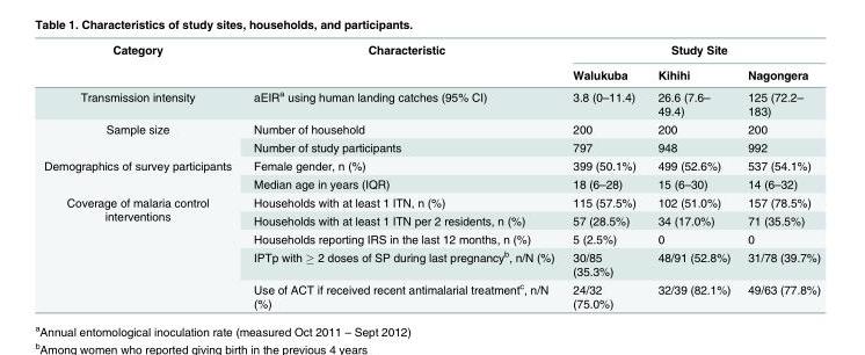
<table><thead><tr><td rowspan="2">Category</td><td rowspan="2">Characteristic</td><td colspan="3">Study Site</td></tr><tr><td>Walukuba</td><td>Kihihi</td><td>Nagongera</td></tr></thead><tbody><tr><td>Transmission intensity</td><td>aEIR<sup>a</sup> using human landing catches (95% CI)</td><td>3.8 (0–11.4)</td><td>26.6 (7.6– 49.4)</td><td>125 (72.2– 183)</td></tr><tr><td rowspan="2">Sample size</td><td>Number of household</td><td>200</td><td>200</td><td>200</td></tr><tr><td>Number of study participants</td><td>797</td><td>948</td><td>992</td></tr><tr><td rowspan="2">Demographics of survey participants</td><td>Female gender, n (%)</td><td>399 (50.1%)</td><td>499 (52.6%)</td><td>537 (54.1%)</td></tr><tr><td>Median age in years (IQR)</td><td>18 (6–28)</td><td>15 (6–30)</td><td>14 (6–32)</td></tr><tr><td rowspan="5">Coverage of malaria control interventions</td><td>Households with at least 1 ITN, n (%)</td><td>115 (57.5%)</td><td>102 (51.0%)</td><td>157 (78.5%)</td></tr><tr><td>Households with at least 1 ITN per 2 residents, n (%)</td><td>57 (28.5%)</td><td>34 (17.0%)</td><td>71 (35.5%)</td></tr><tr><td>Households reporting IRS in the last 12 months, n (%)</td><td>5 (2.5%)</td><td>0</td><td>0</td></tr><tr><td>IPTp with ≥ 2 doses of SP during last pregnancy<sup>b</sup>, n/N (%)</td><td>30/85 (35.3%)</td><td>48/91 (52.8%)</td><td>31/78 (39.7%)</td></tr><tr><td>Use of ACT if received recent antimalarial treatment<sup>c</sup>, n/N (%)</td><td>24/32 (75.0%)</td><td>32/39 (82.1%)</td><td>49/63 (77.8%)</td></tr></tbody></table>